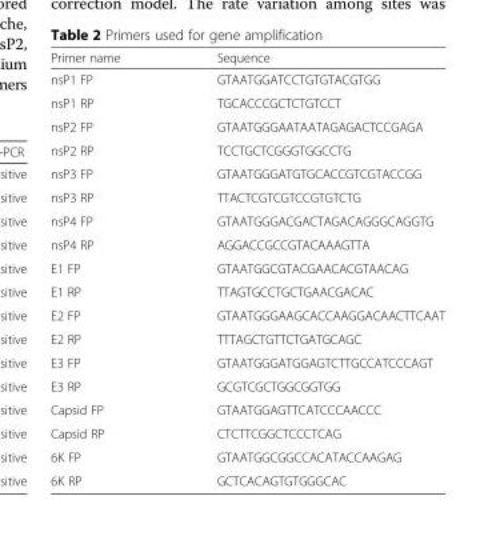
<table><thead><tr><td>Primer name</td><td>Sequence</td></tr></thead><tbody><tr><td>nsP1 FP</td><td>GTAATGGATCCTGTGTACGTGG</td></tr><tr><td>nsP1 RP</td><td>TGCACCCGCTCTGTCCT</td></tr><tr><td>nsP2 FP</td><td>GTAATGGGAATAATAGAGACTCCGAGA</td></tr><tr><td>nsP2 RP</td><td>TCCTGCTCGGGTGGCCTG</td></tr><tr><td>nsP3 FP</td><td>GTAATGGGATGTGCACCGTCGTACCGG</td></tr><tr><td>nsP3 RP</td><td>TTACTCGTCGTCCGTGTCTG</td></tr><tr><td>nsP4 FP</td><td>GTAATGGGACGACTAGACAGGGCAGGTG</td></tr><tr><td>nsP4 RP</td><td>AGGACCGCCGTACAAAGTTA</td></tr><tr><td>E1 FP</td><td>GTAATGGCGTACGAACACGTAACAG</td></tr><tr><td>E1 RP</td><td>TTAGTGCCTGCTGAACGACAC</td></tr><tr><td>E2 FP</td><td>GTAATGGGAAGCACCAAGGACAACTTCAAT</td></tr><tr><td>E2 RP</td><td>TTTAGCTGTTCTGATGCAGC</td></tr><tr><td>E3 FP</td><td>GTAATGGGATGGAGTCTTGCCATCCCAGT</td></tr><tr><td>E3 RP</td><td>GCGTCGCTGGCGGTGG</td></tr><tr><td>Capsid FP</td><td>GTAATGGAGTTCATCCCAACCC</td></tr><tr><td>Capsid RP</td><td>CTCTTCGGCTCCCTCAG</td></tr><tr><td>6K FP</td><td>GTAATGGCGGCCACATACCAAGAG</td></tr><tr><td>6K RP</td><td>GCTCACAGTGTGGGCAC</td></tr></tbody></table>